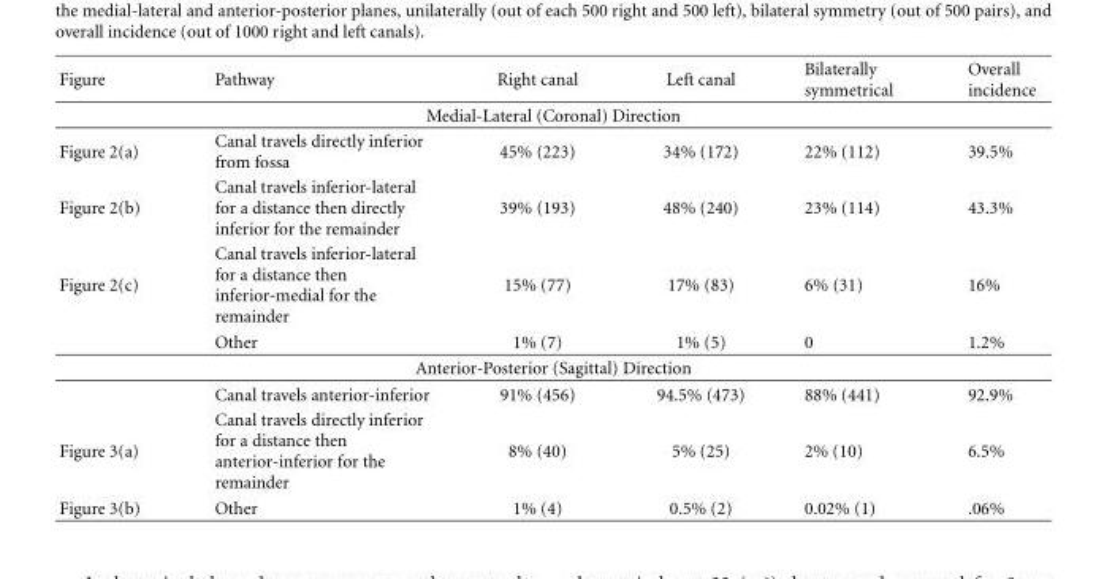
<table><thead><tr><td>Figure</td><td>Pathway</td><td>Right canal</td><td>Left canal</td><td>Bilaterally symmetrical</td><td>Overall incidence</td></tr></thead><tbody><tr><td colspan="6">Medial-Lateral (Coronal) Direction</td></tr><tr><td>Figure 2(a)</td><td>Canal travels directly inferior from fossa</td><td>45% (223)</td><td>34% (172)</td><td>22% (112)</td><td>39.5%</td></tr><tr><td>Figure 2(b)</td><td>Canal travels inferior-lateral for a distance then directly inferior for the remainder</td><td>39% (193)</td><td>48% (240)</td><td>23% (114)</td><td>43.3%</td></tr><tr><td rowspan="2">Figure 2(c)</td><td>Canal travels inferior-lateral for a distance then inferior-medial for the remainder</td><td>15% (77)</td><td>17% (83)</td><td>6% (31)</td><td>16%</td></tr><tr><td>Other</td><td>1% (7)</td><td>1% (5)</td><td>0</td><td>1.2%</td></tr><tr><td colspan="6">Anterior-Posterior (Sagittal) Direction</td></tr><tr><td></td><td>Canal travels anterior-inferior</td><td>91% (456)</td><td>94.5% (473)</td><td>88% (441)</td><td>92.9%</td></tr><tr><td>Figure 3(a)</td><td>Canal travels directly inferior for a distance then anterior-inferior for the remainder</td><td>8% (40)</td><td>5% (25)</td><td>2% (10)</td><td>6.5%</td></tr><tr><td>Figure 3(b)</td><td>Other</td><td>1% (4)</td><td>0.5% (2)</td><td>0.02% (1)</td><td>.06%</td></tr></tbody></table>